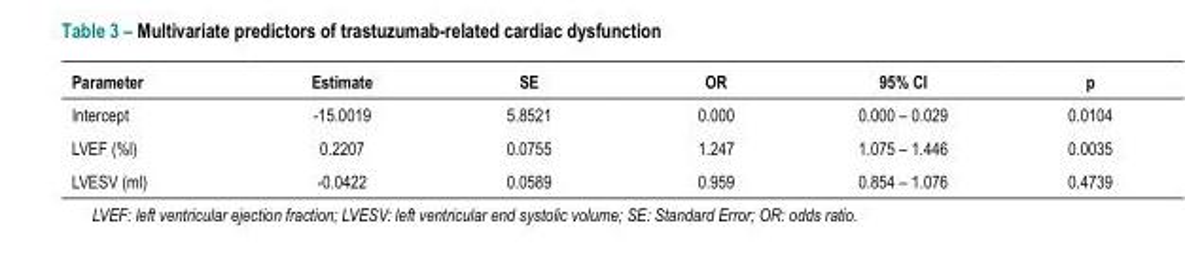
<table><thead><tr><td>Parameter</td><td>Estimate</td><td>SE</td><td>OR</td><td>95% CI</td><td>p</td></tr></thead><tbody><tr><td>Intercept</td><td>-15.0019</td><td>5.8521</td><td>0.000</td><td>0.000 – 0.029</td><td>0.0104</td></tr><tr><td>LVEF (%l)</td><td>0.2207</td><td>0.0755</td><td>1.247</td><td>1.075 – 1.446</td><td>0.0035</td></tr><tr><td>LVESV (ml)</td><td>-0.0422</td><td>0.0589</td><td>0.959</td><td>0.854 – 1.076</td><td>0.4739</td></tr></tbody></table>